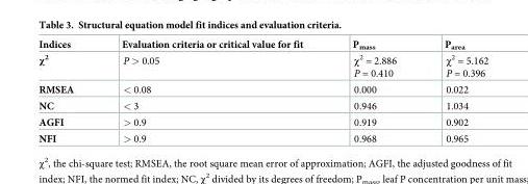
<table><thead><tr><td>Indices</td><td>Evaluation criteria or critical value for fit</td><td>P<sub>mass</sub></td><td>P<sub>area</sub></td></tr></thead><tbody><tr><td>χ<sup>2</sup></td><td>P &gt; 0.05</td><td>χ<sup>2</sup> = 2.886 P = 0.410</td><td>χ<sup>2</sup> = 5.162 P = 0.396</td></tr><tr><td>RMSEA</td><td>&lt; 0.08</td><td>0.000</td><td>0.022</td></tr><tr><td>NC</td><td>&lt; 3</td><td>0.946</td><td>1.034</td></tr><tr><td>AGFI</td><td>&gt; 0.9</td><td>0.919</td><td>0.902</td></tr><tr><td>NFI</td><td>&gt; 0.9</td><td>0.968</td><td>0.965</td></tr></tbody></table>